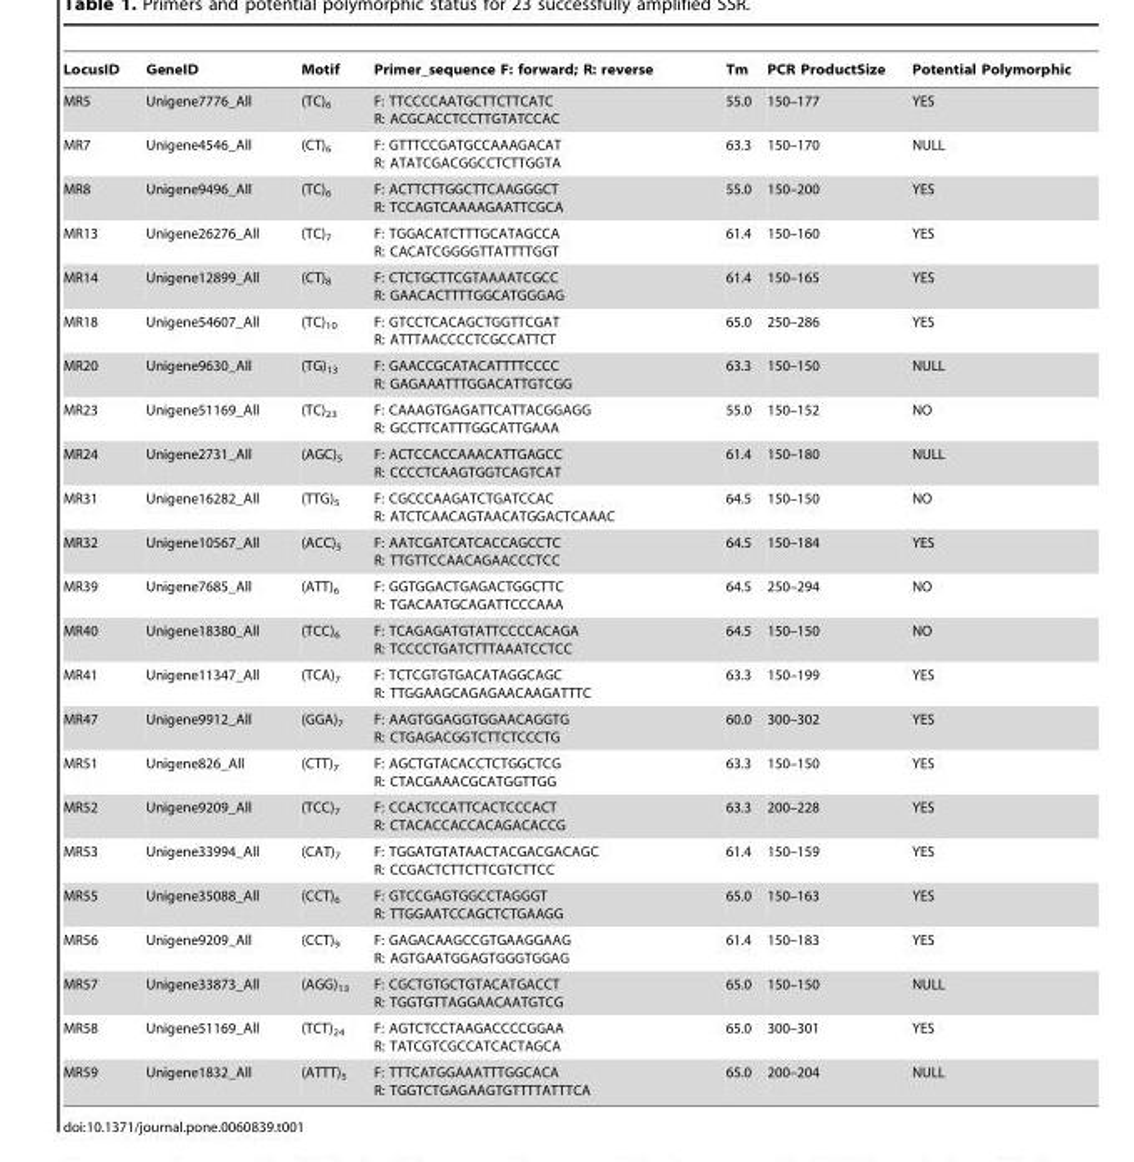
<table><thead><tr><td>LocusID</td><td>GeneID</td><td>Motif</td><td>Primer_sequence F: forward; R: reverse</td><td>Tm</td><td>PCR ProductSize</td><td>Potential Polymorphic</td></tr></thead><tbody><tr><td>MR5</td><td>Unigene7776_All</td><td>(TC)<sub>6</sub></td><td>F: TTCCCCAATGCTTCTTCATC R: ACGCACCTCCTTGTATCCAC</td><td>55.0</td><td>150–177</td><td>YES</td></tr><tr><td>MR7</td><td>Unigene4546_All</td><td>(CT)<sub>6</sub></td><td>F: GTTTCCGATGCCAAAGACAT R: ATATCGACGGCCTCTTGGTA</td><td>63.3</td><td>150–170</td><td>NULL</td></tr><tr><td>MR8</td><td>Unigene9496_All</td><td>(TC)<sub>6</sub></td><td>F: ACTTCTTGGCTTCAAGGGCT R: TCCAGTCAAAAGAATTCGCA</td><td>55.0</td><td>150–200</td><td>YES</td></tr><tr><td>MR13</td><td>Unigene26276_All</td><td>(TC)<sub>7</sub></td><td>F: TGGACATCTTTGCATAGCCA R: CACATCGGGGTTATTTTGGT</td><td>61.4</td><td>150–160</td><td>YES</td></tr><tr><td>MR14</td><td>Unigene12899_All</td><td>(CT)<sub>8</sub></td><td>F: CTCTGCTTCGTAAAATCGCC R: GAACACTTTTGGCATGGGAG</td><td>61.4</td><td>150–165</td><td>YES</td></tr><tr><td>MR18</td><td>Unigene54607_All</td><td>(TC)<sub>10</sub></td><td>F: GTCCTCACAGCTGGTTCGAT R: ATTTAACCCCTCGCCATTCT</td><td>65.0</td><td>250–286</td><td>YES</td></tr><tr><td>MR20</td><td>Unigene9630_All</td><td>(TG)<sub>13</sub></td><td>F: GAACCGCATACATTTTCCCC R: GAGAAATTTGGACATTGTCGG</td><td>63.3</td><td>150–150</td><td>NULL</td></tr><tr><td>MR23</td><td>Unigene51169_All</td><td>(TC)<sub>23</sub></td><td>F: CAAAGTGAGATTCATTACGGAGG R: GCCTTCATTTGGCATTGAAA</td><td>55.0</td><td>150–152</td><td>NO</td></tr><tr><td>MR24</td><td>Unigene2731_All</td><td>(AGC)<sub>5</sub></td><td>F: ACTCCACCAAACATTGAGCC R: CCCCTCAAGTGGTCAGTCAT</td><td>61.4</td><td>150–180</td><td>NULL</td></tr><tr><td>MR31</td><td>Unigene16282_All</td><td>(TTG)<sub>5</sub></td><td>F: CGCCCAAGATCTGATCCAC R: ATCTCAACAGTAACATGGACTCAAAC</td><td>64.5</td><td>150–150</td><td>NO</td></tr><tr><td>MR32</td><td>Unigene10567_All</td><td>(ACC)<sub>5</sub></td><td>F: AATCGATCATCACCAGCCTC R: TTGTTCCAACAGAACCCTCC</td><td>64.5</td><td>150–184</td><td>YES</td></tr><tr><td>MR39</td><td>Unigene7685_All</td><td>(ATT)<sub>6</sub></td><td>F: GGTGGACTGAGACTGGCTTC R: TGACAATGCAGATTCCCAAA</td><td>64.5</td><td>250–294</td><td>NO</td></tr><tr><td>MR40</td><td>Unigene18380_All</td><td>(TCC)<sub>6</sub></td><td>F: TCAGAGATGTATTCCCCACAGA R: TCCCCTGATCTTTAAATCCTCC</td><td>64.5</td><td>150–150</td><td>NO</td></tr><tr><td>MR41</td><td>Unigene11347_All</td><td>(TCA)<sub>7</sub></td><td>F: TCTCGTGTGACATAGGCAGC R: TTGGAAGCAGAGAACAAGATTTC</td><td>63.3</td><td>150–199</td><td>YES</td></tr><tr><td>MR47</td><td>Unigene9912_All</td><td>(GGA)<sub>7</sub></td><td>F: AAGTGGAGGTGGAACAGGTG R: CTGAGACGGTCTTCTCCCTG</td><td>60.0</td><td>300–302</td><td>YES</td></tr><tr><td>MR51</td><td>Unigene826_All</td><td>(CTT)<sub>7</sub></td><td>F: AGCTGTACACCTCTGGCTCG R: CTACGAAACGCATGGTTGG</td><td>63.3</td><td>150–150</td><td>YES</td></tr><tr><td>MR52</td><td>Unigene9209_All</td><td>(TCC)<sub>7</sub></td><td>F: CCACTCCATTCACTCCCACT R: CTACACCACCACAGACACCG</td><td>63.3</td><td>200–228</td><td>YES</td></tr><tr><td>MR53</td><td>Unigene33994_All</td><td>(CAT)<sub>7</sub></td><td>F: TGGATGTATAACTACGACGACAGC R: CCGACTCTTCTTCGTCTTCC</td><td>61.4</td><td>150–159</td><td>YES</td></tr><tr><td>MR55</td><td>Unigene35088_All</td><td>(CCT)<sub>6</sub></td><td>F: GTCCGAGTGGCCTAGGGT R: TTGGAATCCAGCTCTGAAGG</td><td>65.0</td><td>150–163</td><td>YES</td></tr><tr><td>MR56</td><td>Unigene9209_All</td><td>(CCT)<sub>9</sub></td><td>F: GAGACAAGCCGTGAAGGAAG R: AGTGAATGGAGTGGGTGGAG</td><td>61.4</td><td>150–183</td><td>YES</td></tr><tr><td>MR57</td><td>Unigene33873_All</td><td>(AGG)<sub>13</sub></td><td>F: CGCTGTGCTGTACATGACCT R: TGGTGTTAGGAACAATGTCG</td><td>65.0</td><td>150–150</td><td>NULL</td></tr><tr><td>MR58</td><td>Unigene51169_All</td><td>(TCT)<sub>24</sub></td><td>F: AGTCTCCTAAGACCCCGGAA R: TATCGTCGCCATCACTAGCA</td><td>65.0</td><td>300–301</td><td>YES</td></tr><tr><td>MR59</td><td>Unigene1832_All</td><td>(ATTT)<sub>5</sub></td><td>F: TTTCATGGAAATTTGGCACA R: TGGTCTGAGAAGTGTTTTATTTCA</td><td>65.0</td><td>200–204</td><td>NULL</td></tr></tbody></table>